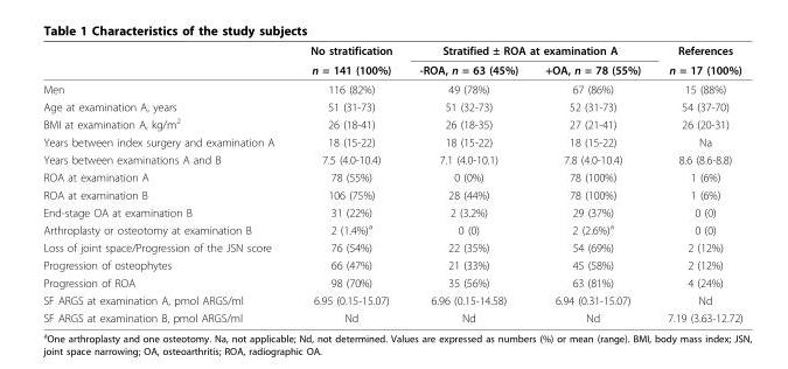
<table><thead><tr><td rowspan="2"></td><td rowspan="2">No stratification n = 141 (100%)</td><td colspan="2">Stratified ± ROA at examination A</td><td rowspan="2">References n = 17 (100%)</td></tr><tr><td>-ROA, n = 63 (45%)</td><td>+OA, n = 78 (55%)</td></tr></thead><tbody><tr><td>Men</td><td>116 (82%)</td><td>49 (78%)</td><td>67 (86%)</td><td>15 (88%)</td></tr><tr><td>Age at examination A, years</td><td>51 (31-73)</td><td>51 (32-73)</td><td>52 (31-73)</td><td>54 (37-70)</td></tr><tr><td>BMI at examination A, kg/m<sup>2</sup></td><td>26 (18-41)</td><td>26 (18-35)</td><td>27 (21-41)</td><td>26 (20-31)</td></tr><tr><td>Years between index surgery and examination A</td><td>18 (15-22)</td><td>18 (15-22)</td><td>18 (15-22)</td><td>Na</td></tr><tr><td>Years between examinations A and B</td><td>7.5 (4.0-10.4)</td><td>7.1 (4.0-10.1)</td><td>7.8 (4.0-10.4)</td><td>8.6 (8.6-8.8)</td></tr><tr><td>ROA at examination A</td><td>78 (55%)</td><td>0 (0%)</td><td>78 (100%)</td><td>1 (6%)</td></tr><tr><td>ROA at examination B</td><td>106 (75%)</td><td>28 (44%)</td><td>78 (100%)</td><td>1 (6%)</td></tr><tr><td>End-stage OA at examination B</td><td>31 (22%)</td><td>2 (3.2%)</td><td>29 (37%)</td><td>0 (0)</td></tr><tr><td>Arthroplasty or osteotomy at examination B</td><td>2 (1.4%)<sup>a</sup></td><td>0 (0)</td><td>2 (2.6%)<sup>a</sup></td><td>0 (0)</td></tr><tr><td>Loss of joint space/Progression of the JSN score</td><td>76 (54%)</td><td>22 (35%)</td><td>54 (69%)</td><td>2 (12%)</td></tr><tr><td>Progression of osteophytes</td><td>66 (47%)</td><td>21 (33%)</td><td>45 (58%)</td><td>2 (12%)</td></tr><tr><td>Progression of ROA</td><td>98 (70%)</td><td>35 (56%)</td><td>63 (81%)</td><td>4 (24%)</td></tr><tr><td>SF ARGS at examination A, pmol ARGS/ml</td><td>6.95 (0.15-15.07)</td><td>6.96 (0.15-14.58)</td><td>6.94 (0.31-15.07)</td><td>Nd</td></tr><tr><td>SF ARGS at examination B, pmol ARGS/ml</td><td>Nd</td><td>Nd</td><td>Nd</td><td>7.19 (3.63-12.72)</td></tr></tbody></table>